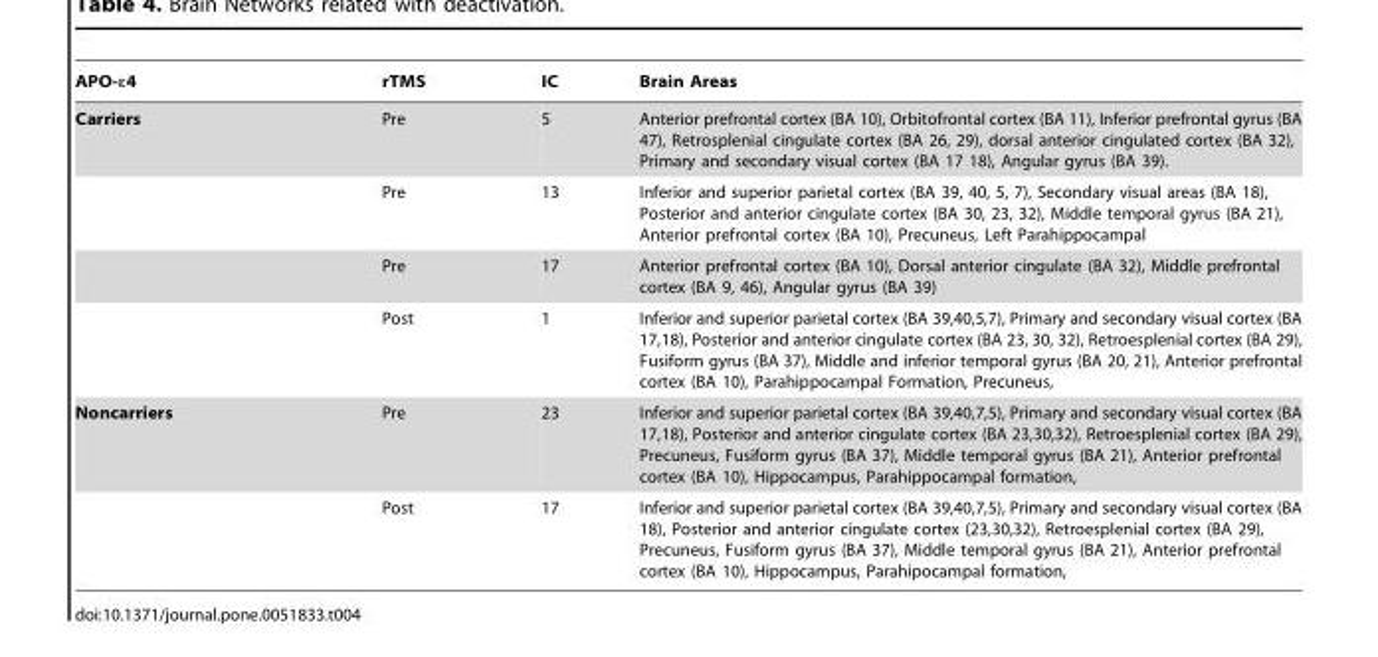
<table><thead><tr><td>APO-ε4</td><td>rTMS</td><td>IC</td><td>Brain Areas</td></tr></thead><tbody><tr><td rowspan="4">Carriers</td><td>Pre</td><td>5</td><td>Anterior prefrontal cortex (BA 10), Orbitofrontal cortex (BA 11), Inferior prefrontal gyrus (BA 47), Retrosplenial cingulate cortex (BA 26, 29), dorsal anterior cingulated cortex (BA 32), Primary and secondary visual cortex (BA 17 18), Angular gyrus (BA 39).</td></tr><tr><td>Pre</td><td>13</td><td>Inferior and superior parietal cortex (BA 39, 40, 5, 7), Secondary visual areas (BA 18), Posterior and anterior cingulate cortex (BA 30, 23, 32), Middle temporal gyrus (BA 21), Anterior prefrontal cortex (BA 10), Precuneus, Left Parahippocampal</td></tr><tr><td>Pre</td><td>17</td><td>Anterior prefrontal cortex (BA 10), Dorsal anterior cingulate (BA 32), Middle prefrontal cortex (BA 9, 46), Angular gyrus (BA 39)</td></tr><tr><td>Post</td><td>1</td><td>Inferior and superior parietal cortex (BA 39,40,5,7), Primary and secondary visual cortex (BA 17,18), Posterior and anterior cingulate cortex (BA 23, 30, 32), Retroesplenial cortex (BA 29), Fusiform gyrus (BA 37), Middle and inferior temporal gyrus (BA 20, 21), Anterior prefrontal cortex (BA 10), Parahippocampal Formation, Precuneus,</td></tr><tr><td rowspan="2">Noncarriers</td><td>Pre</td><td>23</td><td>Inferior and superior parietal cortex (BA 39,40,7,5), Primary and secondary visual cortex (BA 17,18), Posterior and anterior cingulate cortex (BA 23,30,32), Retroesplenial cortex (BA 29), Precuneus, Fusiform gyrus (BA 37), Middle temporal gyrus (BA 21), Anterior prefrontal cortex (BA 10), Hippocampus, Parahippocampal formation,</td></tr><tr><td>Post</td><td>17</td><td>Inferior and superior parietal cortex (BA 39,40,7,5), Primary and secondary visual cortex (BA 18), Posterior and anterior cingulate cortex (23,30,32), Retroesplenial cortex (BA 29), Precuneus, Fusiform gyrus (BA 37), Middle temporal gyrus (BA 21), Anterior prefrontal cortex (BA 10), Hippocampus, Parahipocampal formation,</td></tr></tbody></table>